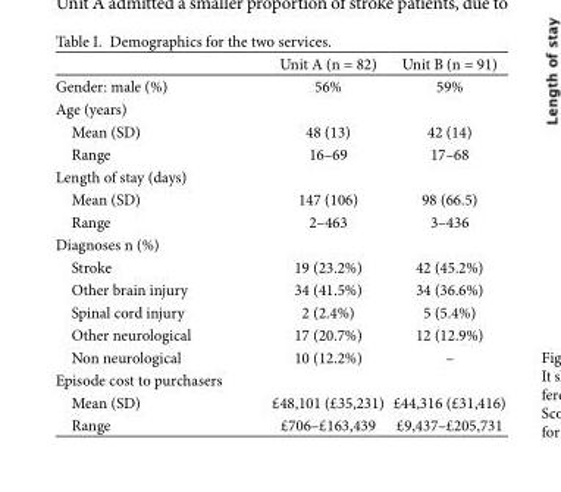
<table><thead><tr><td></td><td>Unit A (n = 82)</td><td>Unit B (n = 91)</td></tr></thead><tbody><tr><td>Gender: male (%)</td><td>56%</td><td>59%</td></tr><tr><td colspan="3">Age (years)</td></tr><tr><td>Mean (SD)</td><td>48 (13)</td><td>42 (14)</td></tr><tr><td>Range</td><td>16–69</td><td>17–68</td></tr><tr><td colspan="3">Length of stay (days)</td></tr><tr><td>Mean (SD)</td><td>147 (106)</td><td>98 (66.5)</td></tr><tr><td>Range</td><td>2–463</td><td>3–436</td></tr><tr><td colspan="3">Diagnoses n (%)</td></tr><tr><td>Stroke</td><td>19 (23.2%)</td><td>42 (45.2%)</td></tr><tr><td>Other brain injury</td><td>34 (41.5%)</td><td>34 (36.6%)</td></tr><tr><td>Spinal cord injury</td><td>2 (2.4%)</td><td>5 (5.4%)</td></tr><tr><td>Other neurological</td><td>17 (20.7%)</td><td>12 (12.9%)</td></tr><tr><td>Non neurological</td><td>10 (12.2%)</td><td>–</td></tr><tr><td colspan="3">Episode cost to purchasers</td></tr><tr><td>Mean (SD)</td><td>£48,101 (£35,231)</td><td>£44,316 (£31,416)</td></tr><tr><td>Range</td><td>£706–£163,439</td><td>£9,437–£205,731</td></tr></tbody></table>